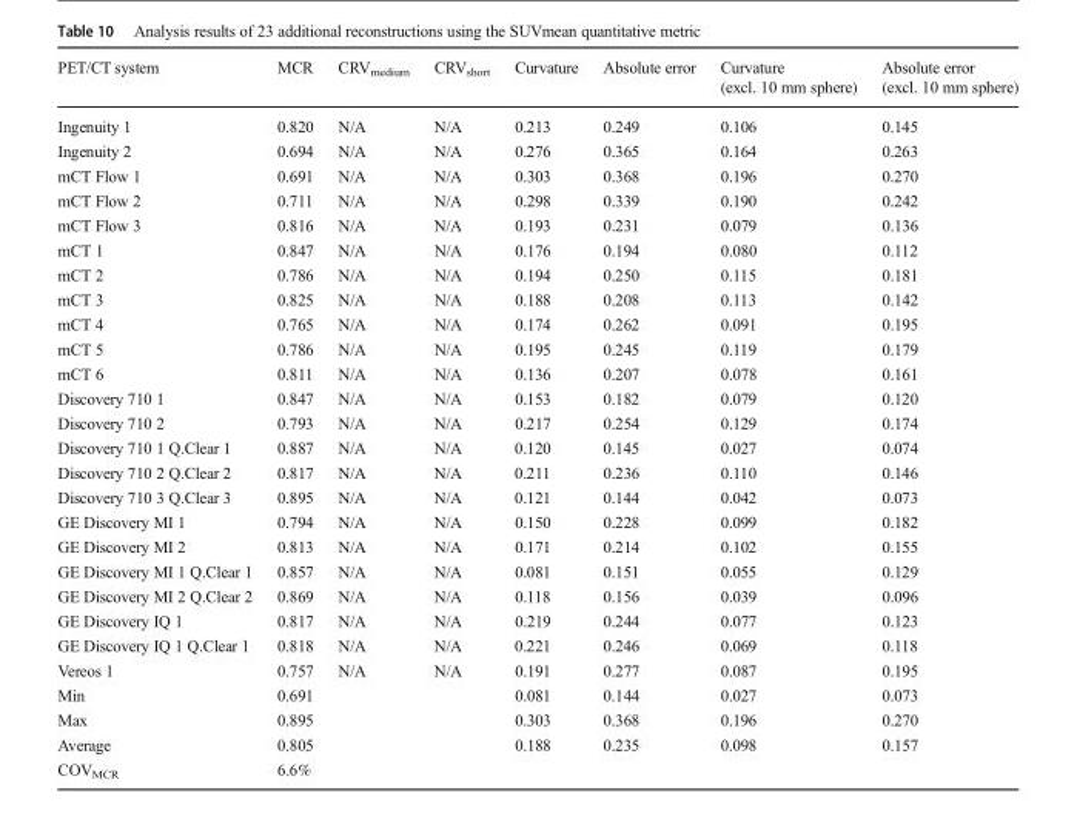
<table><thead><tr><td>PET/CT system</td><td>MCR</td><td>CRV<sub>medium</sub></td><td>CRV<sub>short</sub></td><td>Curvature</td><td>Absolute error</td><td>Curvature (excl. 10 mm sphere)</td><td>Absolute error (excl. 10 mm sphere)</td></tr></thead><tbody><tr><td>Ingenuity 1</td><td>0.820</td><td>N/A</td><td>N/A</td><td>0.213</td><td>0.249</td><td>0.106</td><td>0.145</td></tr><tr><td>Ingenuity 2</td><td>0.694</td><td>N/A</td><td>N/A</td><td>0.276</td><td>0.365</td><td>0.164</td><td>0.263</td></tr><tr><td>mCT Flow 1</td><td>0.691</td><td>N/A</td><td>N/A</td><td>0.303</td><td>0.368</td><td>0.196</td><td>0.270</td></tr><tr><td>mCT Flow 2</td><td>0.711</td><td>N/A</td><td>N/A</td><td>0.298</td><td>0.339</td><td>0.190</td><td>0.242</td></tr><tr><td>mCT Flow 3</td><td>0.816</td><td>N/A</td><td>N/A</td><td>0.193</td><td>0.231</td><td>0.079</td><td>0.136</td></tr><tr><td>mCT 1</td><td>0.847</td><td>N/A</td><td>N/A</td><td>0.176</td><td>0.194</td><td>0.080</td><td>0.112</td></tr><tr><td>mCT 2</td><td>0.786</td><td>N/A</td><td>N/A</td><td>0.194</td><td>0.250</td><td>0.115</td><td>0.181</td></tr><tr><td>mCT 3</td><td>0.825</td><td>N/A</td><td>N/A</td><td>0.188</td><td>0.208</td><td>0.113</td><td>0.142</td></tr><tr><td>mCT 4</td><td>0.765</td><td>N/A</td><td>N/A</td><td>0.174</td><td>0.262</td><td>0.091</td><td>0.195</td></tr><tr><td>mCT 5</td><td>0.786</td><td>N/A</td><td>N/A</td><td>0.195</td><td>0.245</td><td>0.119</td><td>0.179</td></tr><tr><td>mCT 6</td><td>0.811</td><td>N/A</td><td>N/A</td><td>0.136</td><td>0.207</td><td>0.078</td><td>0.161</td></tr><tr><td>Discovery 710 1</td><td>0.847</td><td>N/A</td><td>N/A</td><td>0.153</td><td>0.182</td><td>0.079</td><td>0.120</td></tr><tr><td>Discovery 710 2</td><td>0.793</td><td>N/A</td><td>N/A</td><td>0.217</td><td>0.254</td><td>0.129</td><td>0.174</td></tr><tr><td>Discovery 710 1 Q.Clear 1</td><td>0.887</td><td>N/A</td><td>N/A</td><td>0.120</td><td>0.145</td><td>0.027</td><td>0.074</td></tr><tr><td>Discovery 710 2 Q.Clear 2</td><td>0.817</td><td>N/A</td><td>N/A</td><td>0.211</td><td>0.236</td><td>0.110</td><td>0.146</td></tr><tr><td>Discovery 710 3 Q.Clear 3</td><td>0.895</td><td>N/A</td><td>N/A</td><td>0.121</td><td>0.144</td><td>0.042</td><td>0.073</td></tr><tr><td>GE Discovery MI 1</td><td>0.794</td><td>N/A</td><td>N/A</td><td>0.150</td><td>0.228</td><td>0.099</td><td>0.182</td></tr><tr><td>GE Discovery MI 2</td><td>0.813</td><td>N/A</td><td>N/A</td><td>0.171</td><td>0.214</td><td>0.102</td><td>0.155</td></tr><tr><td>GE Discovery MI 1 Q.Clear 1</td><td>0.857</td><td>N/A</td><td>N/A</td><td>0.081</td><td>0.151</td><td>0.055</td><td>0.129</td></tr><tr><td>GE Discovery MI 2 Q.Clear 2</td><td>0.869</td><td>N/A</td><td>N/A</td><td>0.118</td><td>0.156</td><td>0.039</td><td>0.096</td></tr><tr><td>GE Discovery IQ 1</td><td>0.817</td><td>N/A</td><td>N/A</td><td>0.219</td><td>0.244</td><td>0.077</td><td>0.123</td></tr><tr><td>GE Discovery IQ 1 Q.Clear 1</td><td>0.818</td><td>N/A</td><td>N/A</td><td>0.221</td><td>0.246</td><td>0.069</td><td>0.118</td></tr><tr><td>Vereos 1</td><td>0.757</td><td>N/A</td><td>N/A</td><td>0.191</td><td>0.277</td><td>0.087</td><td>0.195</td></tr><tr><td>Min</td><td>0.691</td><td></td><td></td><td>0.081</td><td>0.144</td><td>0.027</td><td>0.073</td></tr><tr><td>Max</td><td>0.895</td><td></td><td></td><td>0.303</td><td>0.368</td><td>0.196</td><td>0.270</td></tr><tr><td>Average</td><td>0.805</td><td></td><td></td><td>0.188</td><td>0.235</td><td>0.098</td><td>0.157</td></tr><tr><td>COV<sub>MCR</sub></td><td>6.6%</td><td></td><td></td><td></td><td></td><td></td><td></td></tr></tbody></table>